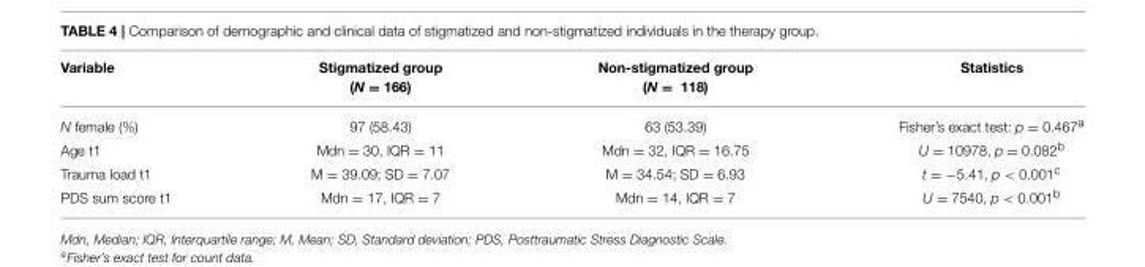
<table><thead><tr><td>Variable</td><td>Stigmatized group (N = 166)</td><td>Non-stigmatized group (N = 118)</td><td>Statistics</td></tr></thead><tbody><tr><td>N female (%)</td><td>97 (58.43)</td><td>63 (53.39)</td><td>Fisher’s exact test: p = 0.467<sup>a</sup></td></tr><tr><td>Age t1</td><td>Mdn = 30, IQR = 11</td><td>Mdn = 32, IQR = 16.75</td><td>U = 10978, p = 0.082<sup>b</sup></td></tr><tr><td>Trauma load t1</td><td>M = 39.09; SD = 7.07</td><td>M = 34.54; SD = 6.93</td><td>t = −5.41, p &lt; 0.001<sup>c</sup></td></tr><tr><td>PDS sum score t1</td><td>Mdn = 17, IQR = 7</td><td>Mdn = 14, IQR = 7</td><td>U = 7540, p &lt; 0.001<sup>b</sup></td></tr></tbody></table>